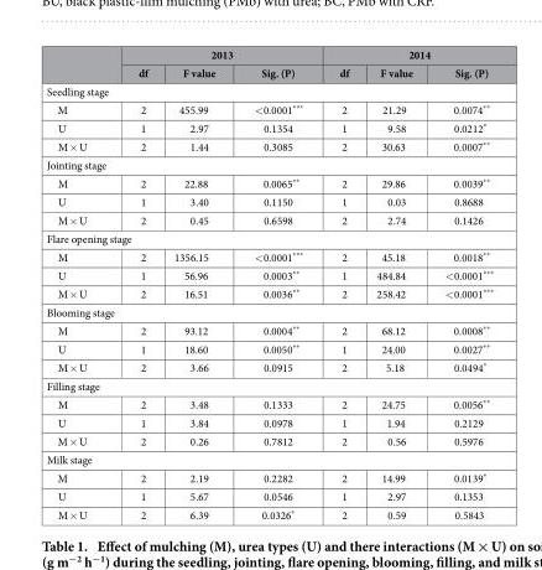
<table><thead><tr><td rowspan="2"></td><td colspan="3">2013</td><td colspan="3">2014</td></tr><tr><td>df</td><td>F value</td><td>Sig. (P)</td><td>df</td><td>F value</td><td>Sig. (P)</td></tr></thead><tbody><tr><td colspan="7">Seedling stage</td></tr><tr><td>M</td><td>2</td><td>455.99</td><td>&lt; 0.0001***</td><td>2</td><td>21.29</td><td>0.0074**</td></tr><tr><td>U</td><td>1</td><td>2.97</td><td>0.1354</td><td>1</td><td>9.58</td><td>0.0212*</td></tr><tr><td>M × U</td><td>2</td><td>1.44</td><td>0.3085</td><td>2</td><td>30.63</td><td>0.0007**</td></tr><tr><td colspan="7">Jointing stage</td></tr><tr><td>M</td><td>2</td><td>22.88</td><td>0.0065**</td><td>2</td><td>29.86</td><td>0.0039**</td></tr><tr><td>U</td><td>1</td><td>3.40</td><td>0.1150</td><td>1</td><td>0.03</td><td>0.8688</td></tr><tr><td>M × U</td><td>2</td><td>0.45</td><td>0.6598</td><td>2</td><td>2.74</td><td>0.1426</td></tr><tr><td colspan="7">Flare opening stage</td></tr><tr><td>M</td><td>2</td><td>1356.15</td><td>&lt; 0.0001***</td><td>2</td><td>45.18</td><td>0.0018**</td></tr><tr><td>U</td><td>1</td><td>56.96</td><td>0.0003**</td><td>1</td><td>484.84</td><td>&lt; 0.0001***</td></tr><tr><td>M × U</td><td>2</td><td>16.51</td><td>0.0036**</td><td>2</td><td>258.42</td><td>&lt; 0.0001***</td></tr><tr><td colspan="7">Blooming stage</td></tr><tr><td>M</td><td>2</td><td>93.12</td><td>0.0004**</td><td>2</td><td>68.12</td><td>0.0008**</td></tr><tr><td>U</td><td>1</td><td>18.60</td><td>0.0050**</td><td>1</td><td>24.00</td><td>0.0027**</td></tr><tr><td>M × U</td><td>2</td><td>3.66</td><td>0.0915</td><td>2</td><td>5.18</td><td>0.0494*</td></tr><tr><td colspan="7">Filling stage</td></tr><tr><td>M</td><td>2</td><td>3.48</td><td>0.1333</td><td>2</td><td>24.75</td><td>0.0056**</td></tr><tr><td>U</td><td>1</td><td>3.84</td><td>0.0978</td><td>1</td><td>1.94</td><td>0.2129</td></tr><tr><td>M × U</td><td>2</td><td>0.26</td><td>0.7812</td><td>2</td><td>0.56</td><td>0.5976</td></tr><tr><td colspan="7">Milk stage</td></tr><tr><td>M</td><td>2</td><td>2.19</td><td>0.2282</td><td>2</td><td>14.99</td><td>0.0139*</td></tr><tr><td>U</td><td>1</td><td>5.67</td><td>0.0546</td><td>1</td><td>2.97</td><td>0.1353</td></tr><tr><td>M × U</td><td>2</td><td>6.39</td><td>0.0326*</td><td>2</td><td>0.59</td><td>0.5843</td></tr></tbody></table>